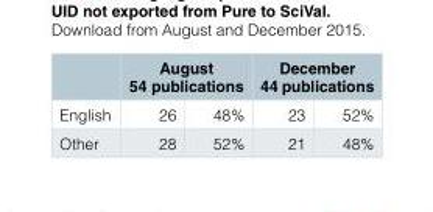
<table><thead><tr><td rowspan="2">English</td><td colspan="2">August 54 publications</td><td colspan="2">December 44 publications</td></tr><tr><td>26</td><td>48%</td><td>23</td><td>52%</td></tr></thead><tbody><tr><td>Other</td><td>28</td><td>52%</td><td>21</td><td>48%</td></tr></tbody></table>